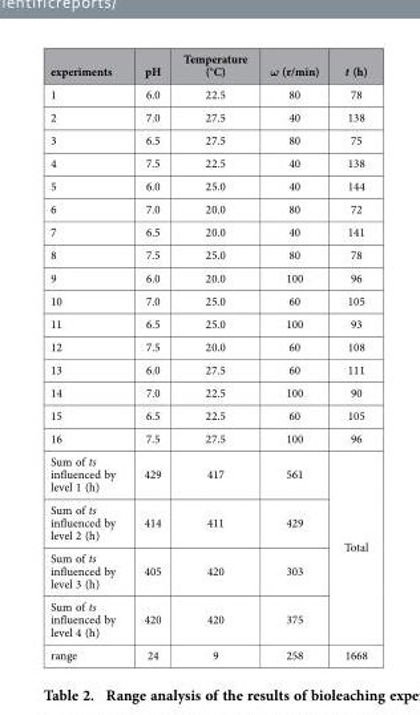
<table><thead><tr><td>experiments</td><td>pH</td><td>Temperature (°C)</td><td>ω (r/min)</td><td>t (h)</td></tr></thead><tbody><tr><td>1</td><td>6.0</td><td>22.5</td><td>80</td><td>78</td></tr><tr><td>2</td><td>7.0</td><td>27.5</td><td>40</td><td>138</td></tr><tr><td>3</td><td>6.5</td><td>27.5</td><td>80</td><td>75</td></tr><tr><td>4</td><td>7.5</td><td>22.5</td><td>40</td><td>138</td></tr><tr><td>5</td><td>6.0</td><td>25.0</td><td>40</td><td>144</td></tr><tr><td>6</td><td>7.0</td><td>20.0</td><td>80</td><td>72</td></tr><tr><td>7</td><td>6.5</td><td>20.0</td><td>40</td><td>141</td></tr><tr><td>8</td><td>7.5</td><td>25.0</td><td>80</td><td>78</td></tr><tr><td>9</td><td>6.0</td><td>20.0</td><td>100</td><td>96</td></tr><tr><td>10</td><td>7.0</td><td>25.0</td><td>60</td><td>105</td></tr><tr><td>11</td><td>6.5</td><td>25.0</td><td>100</td><td>93</td></tr><tr><td>12</td><td>7.5</td><td>20.0</td><td>60</td><td>108</td></tr><tr><td>13</td><td>6.0</td><td>27.5</td><td>60</td><td>111</td></tr><tr><td>14</td><td>7.0</td><td>22.5</td><td>100</td><td>90</td></tr><tr><td>15</td><td>6.5</td><td>22.5</td><td>60</td><td>105</td></tr><tr><td>16</td><td>7.5</td><td>27.5</td><td>100</td><td>96</td></tr><tr><td>Sum of ts influenced by level 1 (h)</td><td>429</td><td>417</td><td>561</td><td rowspan="4">Total</td></tr><tr><td>Sum of ts influenced by level 2 (h)</td><td>414</td><td>411</td><td>429</td></tr><tr><td>Sum of ts influenced by level 3 (h)</td><td>405</td><td>420</td><td>303</td></tr><tr><td>Sum of ts influenced by level 4 (h)</td><td>420</td><td>420</td><td>375</td></tr><tr><td>range</td><td>24</td><td>9</td><td>258</td><td>1668</td></tr></tbody></table>